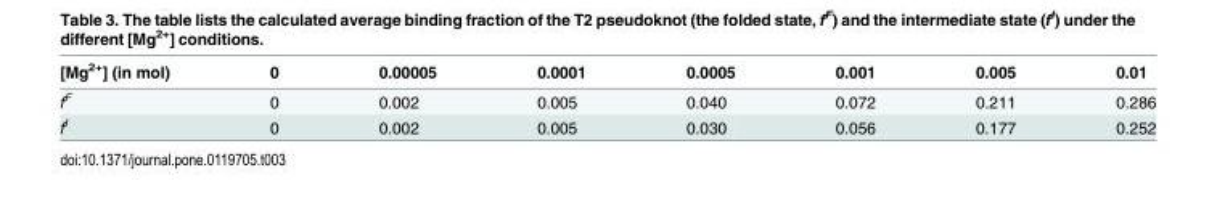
<table><thead><tr><td>[Mg<sup>2+</sup>] (in mol)</td><td>0</td><td>0.00005</td><td>0.0001</td><td>0.0005</td><td>0.001</td><td>0.005</td><td>0.01</td></tr></thead><tbody><tr><td>f<sup>F</sup></td><td>0</td><td>0.002</td><td>0.005</td><td>0.040</td><td>0.072</td><td>0.211</td><td>0.286</td></tr><tr><td>f<sup>I</sup></td><td>0</td><td>0.002</td><td>0.005</td><td>0.030</td><td>0.056</td><td>0.177</td><td>0.252</td></tr></tbody></table>